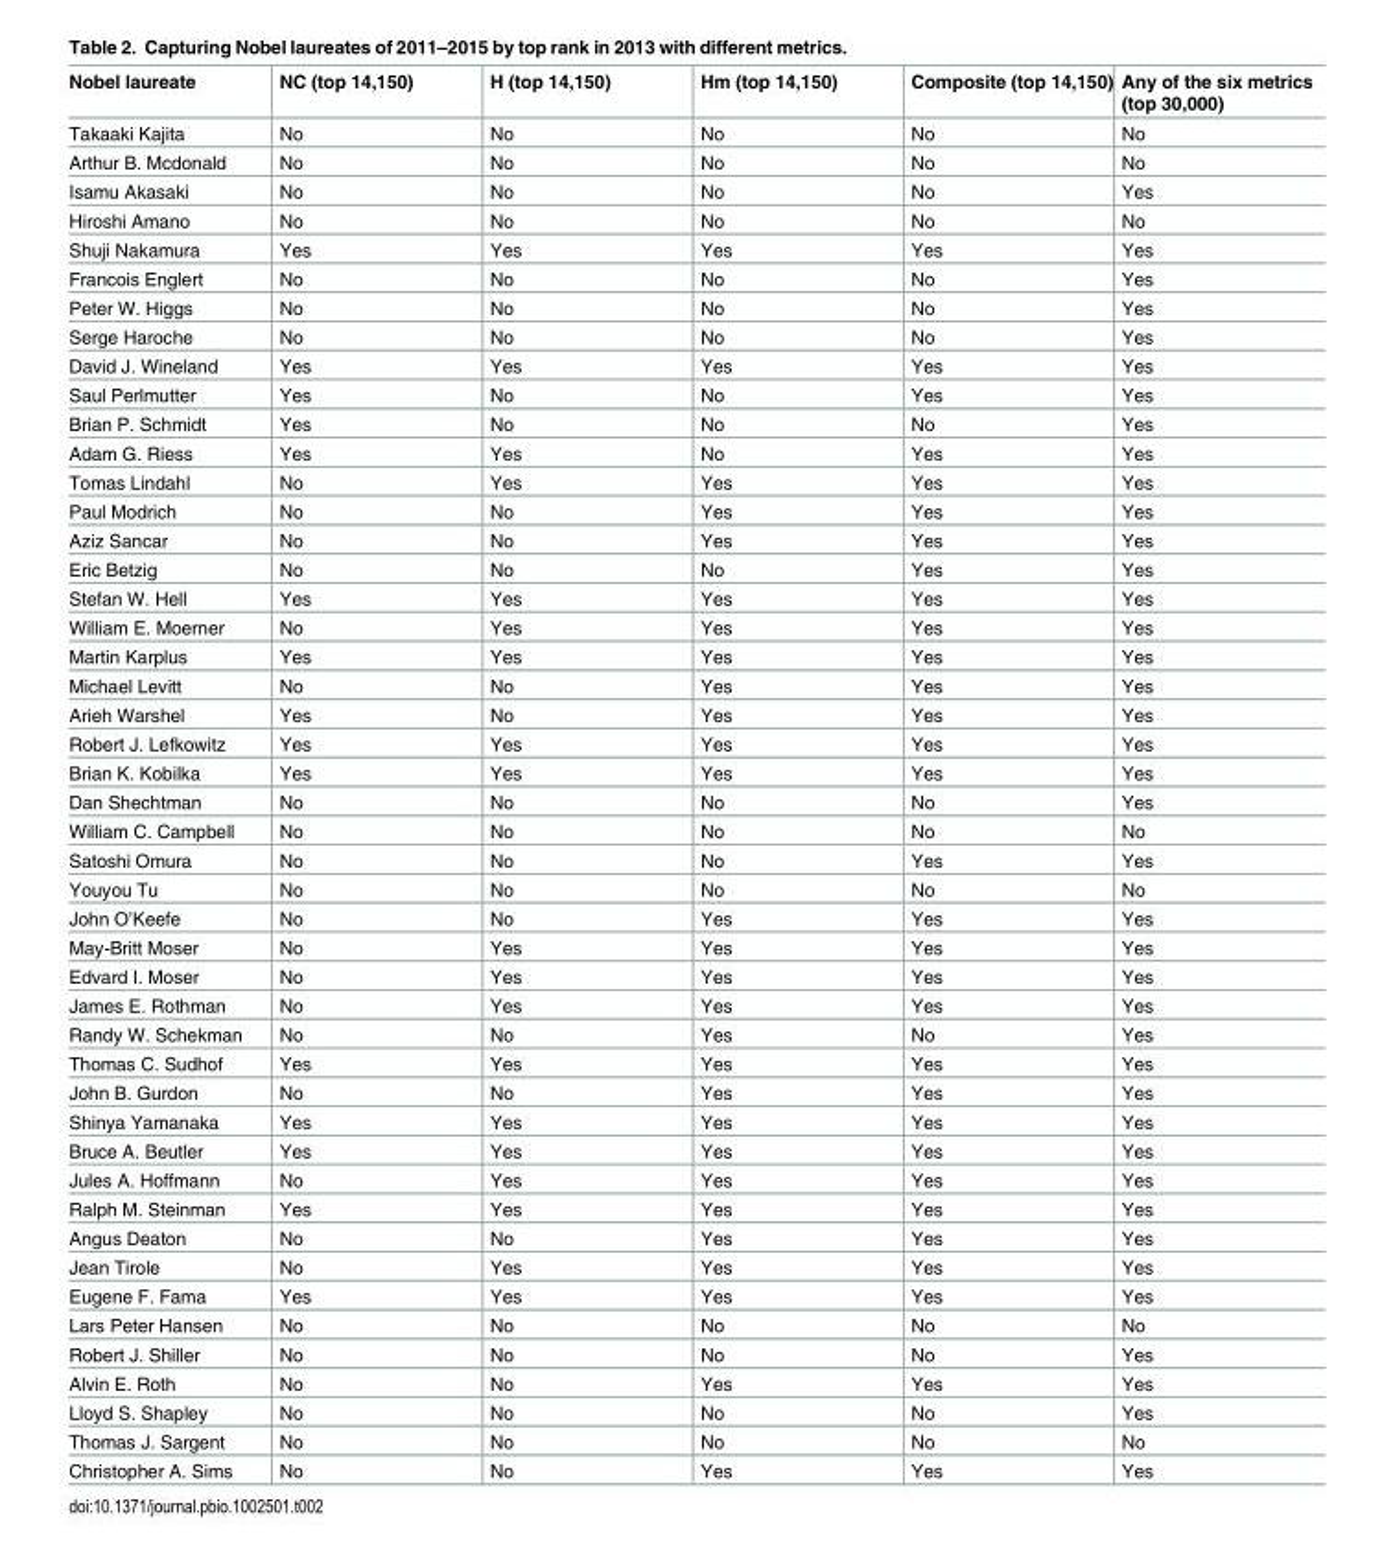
<table><thead><tr><td>Nobel laureate</td><td>NC (top 14,150)</td><td>H (top 14,150)</td><td>Hm (top 14,150)</td><td>Composite (top 14,150)</td><td>Any of the six metrics (top 30,000)</td></tr></thead><tbody><tr><td>Takaaki Kajita</td><td>No</td><td>No</td><td>No</td><td>No</td><td>No</td></tr><tr><td>Arthur B. Mcdonald</td><td>No</td><td>No</td><td>No</td><td>No</td><td>No</td></tr><tr><td>Isamu Akasaki</td><td>No</td><td>No</td><td>No</td><td>No</td><td>Yes</td></tr><tr><td>Hiroshi Amano</td><td>No</td><td>No</td><td>No</td><td>No</td><td>No</td></tr><tr><td>Shuji Nakamura</td><td>Yes</td><td>Yes</td><td>Yes</td><td>Yes</td><td>Yes</td></tr><tr><td>Francois Englert</td><td>No</td><td>No</td><td>No</td><td>No</td><td>Yes</td></tr><tr><td>Peter W. Higgs</td><td>No</td><td>No</td><td>No</td><td>No</td><td>Yes</td></tr><tr><td>Serge Haroche</td><td>No</td><td>No</td><td>No</td><td>No</td><td>Yes</td></tr><tr><td>David J. Wineland</td><td>Yes</td><td>Yes</td><td>Yes</td><td>Yes</td><td>Yes</td></tr><tr><td>Saul Perlmutter</td><td>Yes</td><td>No</td><td>No</td><td>Yes</td><td>Yes</td></tr><tr><td>Brian P. Schmidt</td><td>Yes</td><td>No</td><td>No</td><td>No</td><td>Yes</td></tr><tr><td>Adam G. Riess</td><td>Yes</td><td>Yes</td><td>No</td><td>Yes</td><td>Yes</td></tr><tr><td>Tomas Lindahl</td><td>No</td><td>Yes</td><td>Yes</td><td>Yes</td><td>Yes</td></tr><tr><td>Paul Modrich</td><td>No</td><td>No</td><td>Yes</td><td>Yes</td><td>Yes</td></tr><tr><td>Aziz Sancar</td><td>No</td><td>No</td><td>Yes</td><td>Yes</td><td>Yes</td></tr><tr><td>Eric Betzig</td><td>No</td><td>No</td><td>No</td><td>Yes</td><td>Yes</td></tr><tr><td>Stefan W. Hell</td><td>Yes</td><td>Yes</td><td>Yes</td><td>Yes</td><td>Yes</td></tr><tr><td>William E. Moerner</td><td>No</td><td>Yes</td><td>Yes</td><td>Yes</td><td>Yes</td></tr><tr><td>Martin Karplus</td><td>Yes</td><td>Yes</td><td>Yes</td><td>Yes</td><td>Yes</td></tr><tr><td>Michael Levitt</td><td>No</td><td>No</td><td>Yes</td><td>Yes</td><td>Yes</td></tr><tr><td>Arieh Warshel</td><td>Yes</td><td>No</td><td>Yes</td><td>Yes</td><td>Yes</td></tr><tr><td>Robert J. Lefkowitz</td><td>Yes</td><td>Yes</td><td>Yes</td><td>Yes</td><td>Yes</td></tr><tr><td>Brian K. Kobilka</td><td>Yes</td><td>Yes</td><td>Yes</td><td>Yes</td><td>Yes</td></tr><tr><td>Dan Shechtman</td><td>No</td><td>No</td><td>No</td><td>No</td><td>Yes</td></tr><tr><td>William C. Campbell</td><td>No</td><td>No</td><td>No</td><td>No</td><td>No</td></tr><tr><td>Satoshi Omura</td><td>No</td><td>No</td><td>No</td><td>Yes</td><td>Yes</td></tr><tr><td>Youyou Tu</td><td>No</td><td>No</td><td>No</td><td>No</td><td>No</td></tr><tr><td>John O’Keefe</td><td>No</td><td>No</td><td>Yes</td><td>Yes</td><td>Yes</td></tr><tr><td>May-Britt Moser</td><td>No</td><td>Yes</td><td>Yes</td><td>Yes</td><td>Yes</td></tr><tr><td>Edvard I. Moser</td><td>No</td><td>Yes</td><td>Yes</td><td>Yes</td><td>Yes</td></tr><tr><td>James E. Rothman</td><td>No</td><td>Yes</td><td>Yes</td><td>Yes</td><td>Yes</td></tr><tr><td>Randy W. Schekman</td><td>No</td><td>No</td><td>Yes</td><td>No</td><td>Yes</td></tr><tr><td>Thomas C. Sudhof</td><td>Yes</td><td>Yes</td><td>Yes</td><td>Yes</td><td>Yes</td></tr><tr><td>John B. Gurdon</td><td>No</td><td>No</td><td>Yes</td><td>Yes</td><td>Yes</td></tr><tr><td>Shinya Yamanaka</td><td>Yes</td><td>Yes</td><td>Yes</td><td>Yes</td><td>Yes</td></tr><tr><td>Bruce A. Beutler</td><td>Yes</td><td>Yes</td><td>Yes</td><td>Yes</td><td>Yes</td></tr><tr><td>Jules A. Hoffmann</td><td>No</td><td>Yes</td><td>Yes</td><td>Yes</td><td>Yes</td></tr><tr><td>Ralph M. Steinman</td><td>Yes</td><td>Yes</td><td>Yes</td><td>Yes</td><td>Yes</td></tr><tr><td>Angus Deaton</td><td>No</td><td>No</td><td>Yes</td><td>Yes</td><td>Yes</td></tr><tr><td>Jean Tirole</td><td>No</td><td>Yes</td><td>Yes</td><td>Yes</td><td>Yes</td></tr><tr><td>Eugene F. Fama</td><td>Yes</td><td>Yes</td><td>Yes</td><td>Yes</td><td>Yes</td></tr><tr><td>Lars Peter Hansen</td><td>No</td><td>No</td><td>No</td><td>No</td><td>No</td></tr><tr><td>Robert J. Shiller</td><td>No</td><td>No</td><td>No</td><td>No</td><td>Yes</td></tr><tr><td>Alvin E. Roth</td><td>No</td><td>No</td><td>Yes</td><td>Yes</td><td>Yes</td></tr><tr><td>Lloyd S. Shapley</td><td>No</td><td>No</td><td>No</td><td>No</td><td>Yes</td></tr><tr><td>Thomas J. Sargent</td><td>No</td><td>No</td><td>No</td><td>No</td><td>No</td></tr><tr><td>Christopher A. Sims</td><td>No</td><td>No</td><td>Yes</td><td>Yes</td><td>Yes</td></tr></tbody></table>